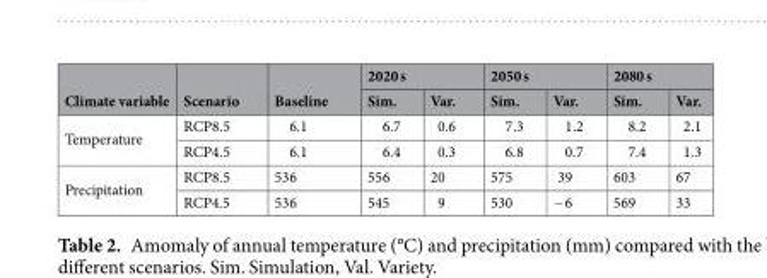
<table><thead><tr><td rowspan="2">Climate variable</td><td rowspan="2">Scenario</td><td rowspan="2">Baseline</td><td colspan="2">2020 s</td><td colspan="2">2050 s</td><td colspan="2">2080 s</td></tr><tr><td>Sim.</td><td>Var.</td><td>Sim.</td><td>Var.</td><td>Sim.</td><td>Var.</td></tr></thead><tbody><tr><td rowspan="2">Temperature</td><td>RCP8.5</td><td>6.1</td><td>6.7</td><td>0.6</td><td>7.3</td><td>1.2</td><td>8.2</td><td>2.1</td></tr><tr><td>RCP4.5</td><td>6.1</td><td>6.4</td><td>0.3</td><td>6.8</td><td>0.7</td><td>7.4</td><td>1.3</td></tr><tr><td rowspan="2">Precipitation</td><td>RCP8.5</td><td>536</td><td>556</td><td>20</td><td>575</td><td>39</td><td>603</td><td>67</td></tr><tr><td>RCP4.5</td><td>536</td><td>545</td><td>9</td><td>530</td><td>−6</td><td>569</td><td>33</td></tr></tbody></table>